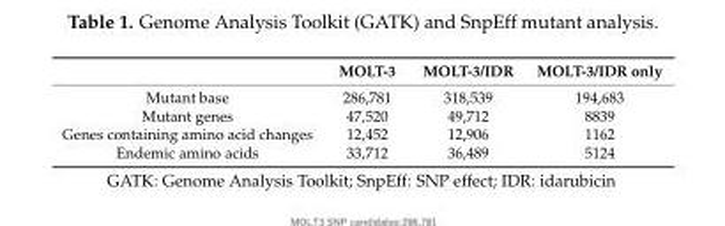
<table><thead><tr><td></td><td>MOLT-3</td><td>MOLT-3/IDR</td><td>MOLT-3/IDR only</td></tr></thead><tbody><tr><td>Mutant base</td><td>286,781</td><td>318,539</td><td>194,683</td></tr><tr><td>Mutant genes</td><td>47,520</td><td>49,712</td><td>8839</td></tr><tr><td>Genes containing amino acid changes</td><td>12,452</td><td>12,906</td><td>1162</td></tr><tr><td>Endemic amino acids</td><td>33,712</td><td>36,489</td><td>5124</td></tr></tbody></table>